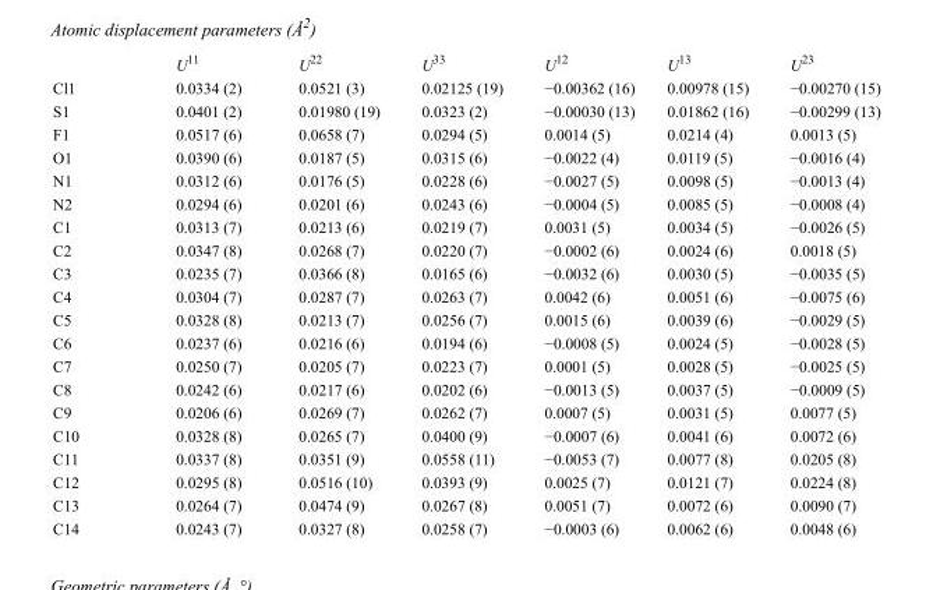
<table><thead><tr><td></td><td>U<sup>11</sup></td><td>U<sup>22</sup></td><td>U<sup>33</sup></td><td>U<sup>12</sup></td><td>U<sup>13</sup></td><td>U<sup>23</sup></td></tr></thead><tbody><tr><td>Cl1</td><td>0.0334 (2)</td><td>0.0521 (3)</td><td>0.02125 (19)</td><td>−0.00362 (16)</td><td>0.00978 (15)</td><td>−0.00270 (15)</td></tr><tr><td>S1</td><td>0.0401 (2)</td><td>0.01980 (19)</td><td>0.0323 (2)</td><td>−0.00030 (13)</td><td>0.01862 (16)</td><td>−0.00299 (13)</td></tr><tr><td>F1</td><td>0.0517 (6)</td><td>0.0658 (7)</td><td>0.0294 (5)</td><td>0.0014 (5)</td><td>0.0214 (4)</td><td>0.0013 (5)</td></tr><tr><td>O1</td><td>0.0390 (6)</td><td>0.0187 (5)</td><td>0.0315 (6)</td><td>−0.0022 (4)</td><td>0.0119 (5)</td><td>−0.0016 (4)</td></tr><tr><td>N1</td><td>0.0312 (6)</td><td>0.0176 (5)</td><td>0.0228 (6)</td><td>−0.0027 (5)</td><td>0.0098 (5)</td><td>−0.0013 (4)</td></tr><tr><td>N2</td><td>0.0294 (6)</td><td>0.0201 (6)</td><td>0.0243 (6)</td><td>−0.0004 (5)</td><td>0.0085 (5)</td><td>−0.0008 (4)</td></tr><tr><td>C1</td><td>0.0313 (7)</td><td>0.0213 (6)</td><td>0.0219 (7)</td><td>0.0031 (5)</td><td>0.0034 (5)</td><td>−0.0026 (5)</td></tr><tr><td>C2</td><td>0.0347 (8)</td><td>0.0268 (7)</td><td>0.0220 (7)</td><td>−0.0002 (6)</td><td>0.0024 (6)</td><td>0.0018 (5)</td></tr><tr><td>C3</td><td>0.0235 (7)</td><td>0.0366 (8)</td><td>0.0165 (6)</td><td>−0.0032 (6)</td><td>0.0030 (5)</td><td>−0.0035 (5)</td></tr><tr><td>C4</td><td>0.0304 (7)</td><td>0.0287 (7)</td><td>0.0263 (7)</td><td>0.0042 (6)</td><td>0.0051 (6)</td><td>−0.0075 (6)</td></tr><tr><td>C5</td><td>0.0328 (8)</td><td>0.0213 (7)</td><td>0.0256 (7)</td><td>0.0015 (6)</td><td>0.0039 (6)</td><td>−0.0029 (5)</td></tr><tr><td>C6</td><td>0.0237 (6)</td><td>0.0216 (6)</td><td>0.0194 (6)</td><td>−0.0008 (5)</td><td>0.0024 (5)</td><td>−0.0028 (5)</td></tr><tr><td>C7</td><td>0.0250 (7)</td><td>0.0205 (7)</td><td>0.0223 (7)</td><td>0.0001 (5)</td><td>0.0028 (5)</td><td>−0.0025 (5)</td></tr><tr><td>C8</td><td>0.0242 (6)</td><td>0.0217 (6)</td><td>0.0202 (6)</td><td>−0.0013 (5)</td><td>0.0037 (5)</td><td>−0.0009 (5)</td></tr><tr><td>C9</td><td>0.0206 (6)</td><td>0.0269 (7)</td><td>0.0262 (7)</td><td>0.0007 (5)</td><td>0.0031 (5)</td><td>0.0077 (5)</td></tr><tr><td>C10</td><td>0.0328 (8)</td><td>0.0265 (7)</td><td>0.0400 (9)</td><td>−0.0007 (6)</td><td>0.0041 (6)</td><td>0.0072 (6)</td></tr><tr><td>C11</td><td>0.0337 (8)</td><td>0.0351 (9)</td><td>0.0558 (11)</td><td>−0.0053 (7)</td><td>0.0077 (8)</td><td>0.0205 (8)</td></tr><tr><td>C12</td><td>0.0295 (8)</td><td>0.0516 (10)</td><td>0.0393 (9)</td><td>0.0025 (7)</td><td>0.0121 (7)</td><td>0.0224 (8)</td></tr><tr><td>C13</td><td>0.0264 (7)</td><td>0.0474 (9)</td><td>0.0267 (8)</td><td>0.0051 (7)</td><td>0.0072 (6)</td><td>0.0090 (7)</td></tr><tr><td>C14</td><td>0.0243 (7)</td><td>0.0327 (8)</td><td>0.0258 (7)</td><td>−0.0003 (6)</td><td>0.0062 (6)</td><td>0.0048 (6)</td></tr></tbody></table>